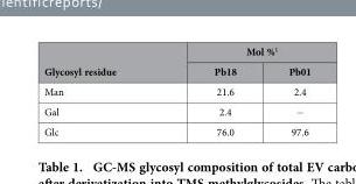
<table><thead><tr><td rowspan="2">Glycosyl residue</td><td colspan="2">Mol %<sup>1</sup></td></tr><tr><td>Pb18</td><td>Pb01</td></tr></thead><tbody><tr><td>Man</td><td>21.6</td><td>2.4</td></tr><tr><td>Gal</td><td>2.4</td><td>−</td></tr><tr><td>Glc</td><td>76.0</td><td>97.6</td></tr></tbody></table>